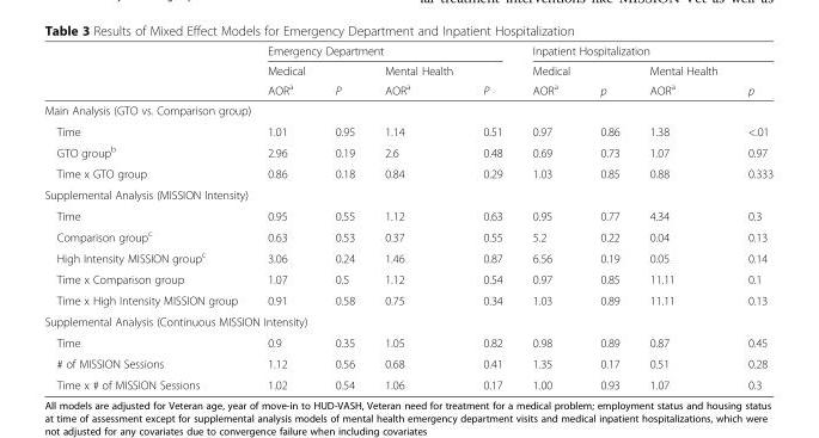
<table><thead><tr><td rowspan="3"></td><td colspan="4">Emergency Department</td><td colspan="4">Inpatient Hospitalization</td></tr><tr><td rowspan="2">Medical AOR<sup>a</sup></td><td rowspan="2">P</td><td rowspan="2">Mental Health AOR<sup>a</sup></td><td rowspan="2">P</td><td rowspan="2">Medical AOR<sup>a</sup></td><td rowspan="2">p</td><td rowspan="2">Mental Health AOR<sup>a</sup></td><td rowspan="2">p</td></tr><tr></tr></thead><tbody><tr><td colspan="9">Main Analysis (GTO vs. Comparison group)</td></tr><tr><td>Time</td><td>1.01</td><td>0.95</td><td>1.14</td><td>0.51</td><td>0.97</td><td>0.86</td><td>1.38</td><td>&lt;.01</td></tr><tr><td>GTO group<sup>b</sup></td><td>2.96</td><td>0.19</td><td>2.6</td><td>0.48</td><td>0.69</td><td>0.73</td><td>1.07</td><td>0.97</td></tr><tr><td>Time x GTO group</td><td>0.86</td><td>0.18</td><td>0.84</td><td>0.29</td><td>1.03</td><td>0.85</td><td>0.88</td><td>0.333</td></tr><tr><td colspan="9">Supplemental Analysis (MISSION Intensity)</td></tr><tr><td>Time</td><td>0.95</td><td>0.55</td><td>1.12</td><td>0.63</td><td>0.95</td><td>0.77</td><td>4.34</td><td>0.3</td></tr><tr><td>Comparison group<sup>c</sup></td><td>0.63</td><td>0.53</td><td>0.37</td><td>0.55</td><td>5.2</td><td>0.22</td><td>0.04</td><td>0.13</td></tr><tr><td>High Intensity MISSION group<sup>c</sup></td><td>3.06</td><td>0.24</td><td>1.46</td><td>0.87</td><td>6.56</td><td>0.19</td><td>0.05</td><td>0.14</td></tr><tr><td>Time x Comparison group</td><td>1.07</td><td>0.5</td><td>1.12</td><td>0.54</td><td>0.97</td><td>0.85</td><td>11.11</td><td>0.1</td></tr><tr><td>Time x High Intensity MISSION group</td><td>0.91</td><td>0.58</td><td>0.75</td><td>0.34</td><td>1.03</td><td>0.89</td><td>11.11</td><td>0.13</td></tr><tr><td colspan="9">Supplemental Analysis (Continuous MISSION Intensity)</td></tr><tr><td>Time</td><td>0.9</td><td>0.35</td><td>1.05</td><td>0.82</td><td>0.98</td><td>0.89</td><td>0.87</td><td>0.45</td></tr><tr><td># of MISSION Sessions</td><td>1.12</td><td>0.56</td><td>0.68</td><td>0.41</td><td>1.35</td><td>0.17</td><td>0.51</td><td>0.28</td></tr><tr><td>Time x # of MISSION Sessions</td><td>1.02</td><td>0.54</td><td>1.06</td><td>0.17</td><td>1.00</td><td>0.93</td><td>1.07</td><td>0.3</td></tr></tbody></table>